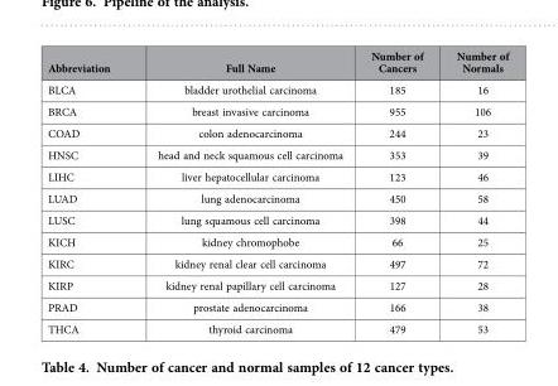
<table><thead><tr><td>Abbreviation</td><td>Full Name</td><td>Number of Cancers</td><td>Number of Normals</td></tr></thead><tbody><tr><td>BLCA</td><td>bladder urothelial carcinoma</td><td>185</td><td>16</td></tr><tr><td>BRCA</td><td>breast invasive carcinoma</td><td>955</td><td>106</td></tr><tr><td>COAD</td><td>colon adenocarcinoma</td><td>244</td><td>23</td></tr><tr><td>HNSC</td><td>head and neck squamous cell carcinoma</td><td>353</td><td>39</td></tr><tr><td>LIHC</td><td>liver hepatocellular carcinoma</td><td>123</td><td>46</td></tr><tr><td>LUAD</td><td>lung adenocarcinoma</td><td>450</td><td>58</td></tr><tr><td>LUSC</td><td>lung squamous cell carcinoma</td><td>398</td><td>44</td></tr><tr><td>KICH</td><td>kidney chromophobe</td><td>66</td><td>25</td></tr><tr><td>KIRC</td><td>kidney renal clear cell carcinoma</td><td>497</td><td>72</td></tr><tr><td>KIRP</td><td>kidney renal papillary cell carcinoma</td><td>127</td><td>28</td></tr><tr><td>PRAD</td><td>prostate adenocarcinoma</td><td>166</td><td>38</td></tr><tr><td>THCA</td><td>thyroid carcinoma</td><td>479</td><td>53</td></tr></tbody></table>